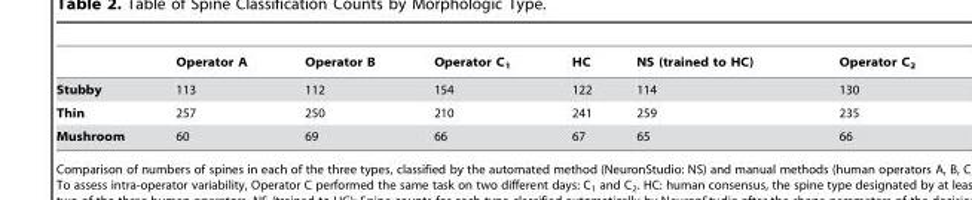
<table><thead><tr><td></td><td>Operator A</td><td>Operator B</td><td>Operator C<sub>1</sub></td><td>HC</td><td>NS (trained to HC)</td><td>Operator C<sub>2</sub></td></tr></thead><tbody><tr><td>Stubby</td><td>113</td><td>112</td><td>154</td><td>122</td><td>114</td><td>130</td></tr><tr><td>Thin</td><td>257</td><td>250</td><td>210</td><td>241</td><td>259</td><td>235</td></tr><tr><td>Mushroom</td><td>60</td><td>69</td><td>66</td><td>67</td><td>65</td><td>66</td></tr></tbody></table>